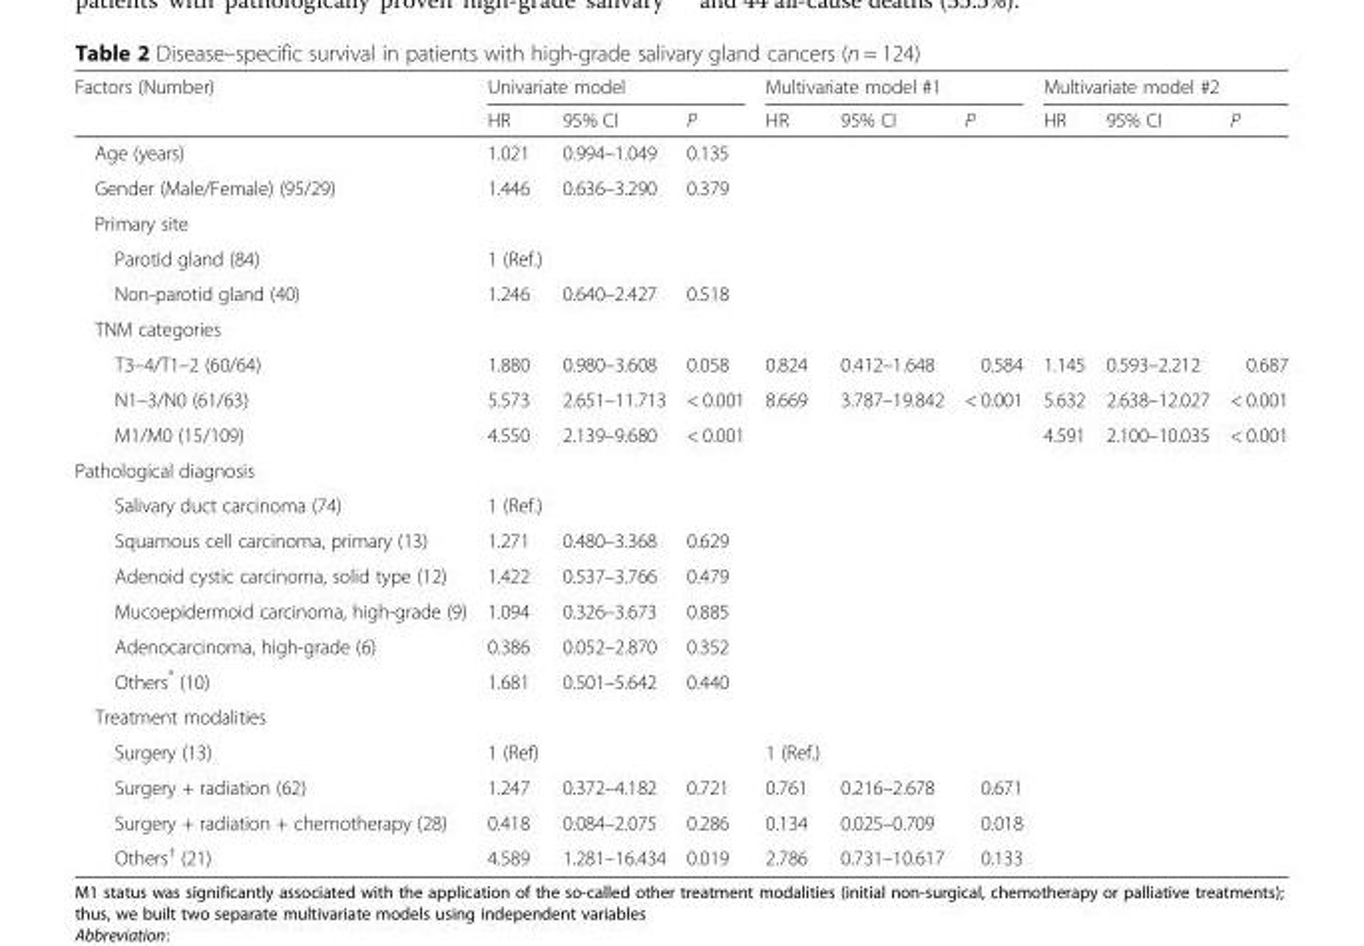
<table><thead><tr><td rowspan="2">Factors (Number)</td><td colspan="3">Univariate model</td><td colspan="3">Multivariate model #1</td><td colspan="3">Multivariate model #2</td></tr><tr><td>HR</td><td>95% CI</td><td>P</td><td>HR</td><td>95% CI</td><td>P</td><td>HR</td><td>95% CI</td><td>P</td></tr></thead><tbody><tr><td>Age (years)</td><td>1.021</td><td>0.994–1.049</td><td>0.135</td><td></td><td></td><td></td><td></td><td></td><td></td></tr><tr><td>Gender (Male/Female) (95/29)</td><td>1.446</td><td>0.636–3.290</td><td>0.379</td><td></td><td></td><td></td><td></td><td></td><td></td></tr><tr><td colspan="10">Primary site</td></tr><tr><td>Parotid gland (84)</td><td>1 (Ref.)</td><td></td><td></td><td></td><td></td><td></td><td></td><td></td><td></td></tr><tr><td>Non-parotid gland (40)</td><td>1.246</td><td>0.640–2.427</td><td>0.518</td><td></td><td></td><td></td><td></td><td></td><td></td></tr><tr><td colspan="10">TNM categories</td></tr><tr><td>T3–4/T1–2 (60/64)</td><td>1.880</td><td>0.980–3.608</td><td>0.058</td><td>0.824</td><td>0.412–1.648</td><td>0.584</td><td>1.145</td><td>0.593–2.212</td><td>0.687</td></tr><tr><td>N1–3/N0 (61/63)</td><td>5.573</td><td>2.651–11.713</td><td>&lt; 0.001</td><td>8.669</td><td>3.787–19.842</td><td>&lt; 0.001</td><td>5.632</td><td>2.638–12.027</td><td>&lt; 0.001</td></tr><tr><td>M1/M0 (15/109)</td><td>4.550</td><td>2.139–9.680</td><td>&lt; 0.001</td><td></td><td></td><td></td><td>4.591</td><td>2.100–10.035</td><td>&lt; 0.001</td></tr><tr><td colspan="10">Pathological diagnosis</td></tr><tr><td>Salivary duct carcinoma (74)</td><td>1 (Ref.)</td><td></td><td></td><td></td><td></td><td></td><td></td><td></td><td></td></tr><tr><td>Squamous cell carcinoma, primary (13)</td><td>1.271</td><td>0.480–3.368</td><td>0.629</td><td></td><td></td><td></td><td></td><td></td><td></td></tr><tr><td>Adenoid cystic carcinoma, solid type (12)</td><td>1.422</td><td>0.537–3.766</td><td>0.479</td><td></td><td></td><td></td><td></td><td></td><td></td></tr><tr><td>Mucoepidermoid carcinoma, high-grade (9)</td><td>1.094</td><td>0.326–3.673</td><td>0.885</td><td></td><td></td><td></td><td></td><td></td><td></td></tr><tr><td>Adenocarcinoma, high-grade (6)</td><td>0.386</td><td>0.052–2.870</td><td>0.352</td><td></td><td></td><td></td><td></td><td></td><td></td></tr><tr><td>Others* (10)</td><td>1.681</td><td>0.501–5.642</td><td>0.440</td><td></td><td></td><td></td><td></td><td></td><td></td></tr><tr><td colspan="10">Treatment modalities</td></tr><tr><td>Surgery (13)</td><td>1 (Ref)</td><td></td><td></td><td>1 (Ref.)</td><td></td><td></td><td></td><td></td><td></td></tr><tr><td>Surgery + radiation (62)</td><td>1.247</td><td>0.372–4.182</td><td>0.721</td><td>0.761</td><td>0.216–2.678</td><td>0.671</td><td></td><td></td><td></td></tr><tr><td>Surgery + radiation + chemotherapy (28)</td><td>0.418</td><td>0.084–2.075</td><td>0.286</td><td>0.134</td><td>0.025–0.709</td><td>0.018</td><td></td><td></td><td></td></tr><tr><td>Others<sup>†</sup> (21)</td><td>4.589</td><td>1.281–16.434</td><td>0.019</td><td>2.786</td><td>0.731–10.617</td><td>0.133</td><td></td><td></td><td></td></tr></tbody></table>